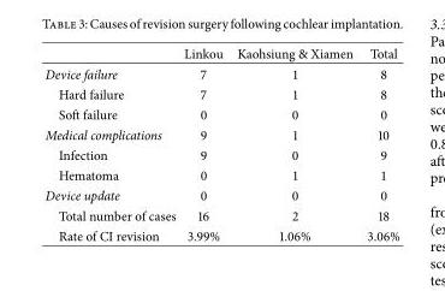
<table><thead><tr><td></td><td>Linkou</td><td>Kaohsiung &amp; Xiamen</td><td>Total</td></tr></thead><tbody><tr><td>Device failure</td><td>7</td><td>1</td><td>8</td></tr><tr><td>Hard failure</td><td>7</td><td>1</td><td>8</td></tr><tr><td>Soft failure</td><td>0</td><td>0</td><td>0</td></tr><tr><td>Medical complications</td><td>9</td><td>1</td><td>10</td></tr><tr><td>Infection</td><td>9</td><td>0</td><td>9</td></tr><tr><td>Hematoma</td><td>0</td><td>1</td><td>1</td></tr><tr><td>Device update</td><td>0</td><td>0</td><td>0</td></tr><tr><td>Total number of cases</td><td>16</td><td>2</td><td>18</td></tr><tr><td>Rate of CI revision</td><td>3.99%</td><td>1.06%</td><td>3.06%</td></tr></tbody></table>